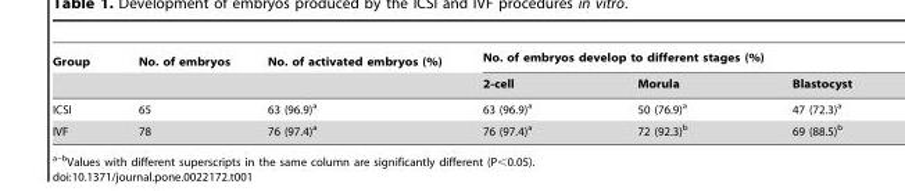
<table><thead><tr><td rowspan="2">Group</td><td rowspan="2">No. of embryos</td><td rowspan="2">No. of activated embryos (%)</td><td colspan="3">No. of embryos develop to different stages (%)</td></tr><tr><td>2-cell</td><td>Morula</td><td>Blastocyst</td></tr></thead><tbody><tr><td>ICSI</td><td>65</td><td>63 (96.9)<sup>a</sup></td><td>63 (96.9)<sup>a</sup></td><td>50 (76.9)<sup>a</sup></td><td>47 (72.3)<sup>a</sup></td></tr><tr><td>IVF</td><td>78</td><td>76 (97.4)<sup>a</sup></td><td>76 (97.4)<sup>a</sup></td><td>72 (92.3)<sup>b</sup></td><td>69 (88.5)<sup>b</sup></td></tr></tbody></table>